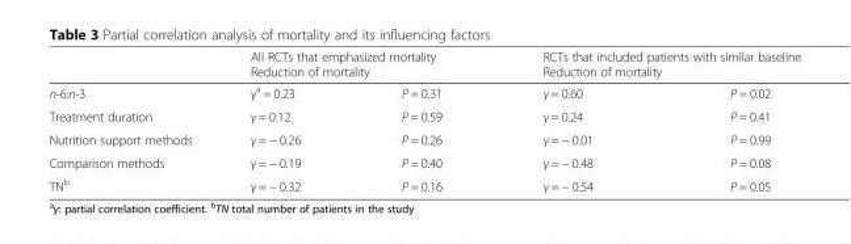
<table><thead><tr><td rowspan="3">n-6:n-3</td><td rowspan="2" colspan="2">All RCTs that emphasized mortality Reduction of mortality</td><td rowspan="2" colspan="2">RCTs that included patients with similar baseline Reduction of mortality</td></tr><tr></tr><tr><td>γ<sup>a</sup> = 0.23</td><td>P = 0.31</td><td>γ = 0.60</td><td>P = 0.02</td></tr></thead><tbody><tr><td>Treatment duration</td><td>γ = 0.12</td><td>P = 0.59</td><td>γ = 0.24</td><td>P = 0.41</td></tr><tr><td>Nutrition support methods</td><td>γ = − 0.26</td><td>P = 0.26</td><td>γ = − 0.01</td><td>P = 0.99</td></tr><tr><td>Comparison methods</td><td>γ = − 0.19</td><td>P = 0.40</td><td>γ = − 0.48</td><td>P = 0.08</td></tr><tr><td>TN<sup>b</sup></td><td>γ = − 0.32</td><td>P = 0.16</td><td>γ = − 0.54</td><td>P = 0.05</td></tr></tbody></table>